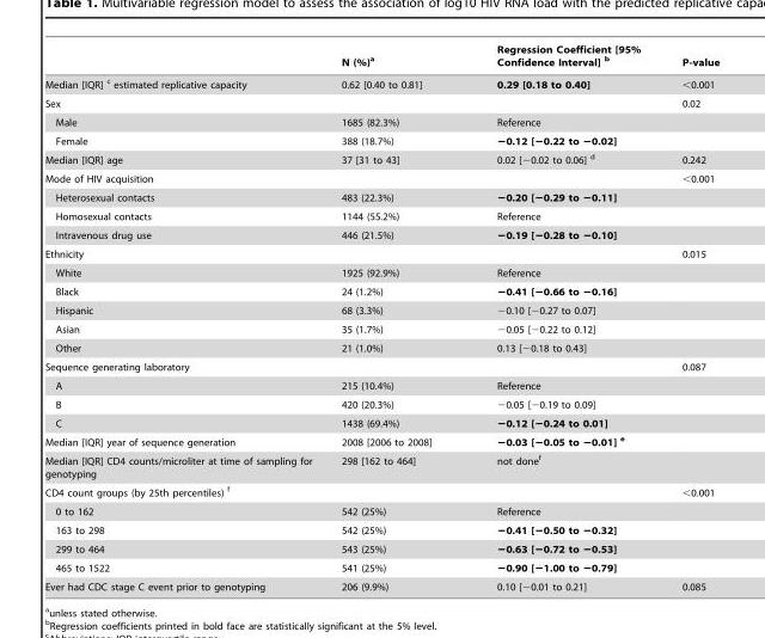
<table><thead><tr><td></td><td>N (%)<sup>a</sup></td><td>Regression Coefficient [95% Confidence Interval] b</td><td>P-value</td></tr></thead><tbody><tr><td>Median [IQR] c estimated replicative capacity</td><td>0.62 [0.40 to 0.81]</td><td>0.29 [0.18 to 0.40]</td><td>&lt;0.001</td></tr><tr><td>Sex</td><td></td><td></td><td>0.02</td></tr><tr><td>Male</td><td>1685 (82.3%)</td><td>Reference</td><td></td></tr><tr><td>Female</td><td>388 (18.7%)</td><td>−0.12 [−0.22 to −0.02]</td><td></td></tr><tr><td>Median [IQR] age</td><td>37 [31 to 43]</td><td>0.02 [−0.02 to 0.06] d</td><td>0.242</td></tr><tr><td>Mode of HIV acquisition</td><td></td><td></td><td>&lt;0.001</td></tr><tr><td>Heterosexual contacts</td><td>483 (22.3%)</td><td>−0.20 [−0.29 to −0.11]</td><td></td></tr><tr><td>Homosexual contacts</td><td>1144 (55.2%)</td><td>Reference</td><td></td></tr><tr><td>Intravenous drug use</td><td>446 (21.5%)</td><td>−0.19 [−0.28 to −0.10]</td><td></td></tr><tr><td>Ethnicity</td><td></td><td></td><td>0.015</td></tr><tr><td>White</td><td>1925 (92.9%)</td><td>Reference</td><td></td></tr><tr><td>Black</td><td>24 (1.2%)</td><td>−0.41 [−0.66 to −0.16]</td><td></td></tr><tr><td>Hispanic</td><td>68 (3.3%)</td><td>−0.10 [−0.27 to 0.07]</td><td></td></tr><tr><td>Asian</td><td>35 (1.7%)</td><td>−0.05 [−0.22 to 0.12]</td><td></td></tr><tr><td>Other</td><td>21 (1.0%)</td><td>0.13 [−0.18 to 0.43]</td><td></td></tr><tr><td>Sequence generating laboratory</td><td></td><td></td><td>0.087</td></tr><tr><td>A</td><td>215 (10.4%)</td><td>Reference</td><td></td></tr><tr><td>B</td><td>420 (20.3%)</td><td>−0.05 [−0.19 to 0.09]</td><td></td></tr><tr><td>C</td><td>1438 (69.4%)</td><td>−0.12 [−0.24 to 0.01]</td><td></td></tr><tr><td>Median [IQR] year of sequence generation</td><td>2008 [2006 to 2008]</td><td>−0.03 [−0.05 to −0.01] e</td><td></td></tr><tr><td>Median [IQR] CD4 counts/microliter at time of sampling for genotyping</td><td>298 [162 to 464]</td><td>not done<sup>f</sup></td><td></td></tr><tr><td>CD4 count groups (by 25th percentiles) f</td><td></td><td></td><td>&lt;0.001</td></tr><tr><td>0 to 162</td><td>542 (25%)</td><td>Reference</td><td></td></tr><tr><td>163 to 298</td><td>542 (25%)</td><td>−0.41 [−0.50 to −0.32]</td><td></td></tr><tr><td>299 to 464</td><td>543 (25%)</td><td>−0.63 [−0.72 to −0.53]</td><td></td></tr><tr><td>465 to 1522</td><td>541 (25%)</td><td>−0.90 [−1.00 to −0.79]</td><td></td></tr><tr><td>Ever had CDC stage C event prior to genotyping</td><td>206 (9.9%)</td><td>0.10 [−0.01 to 0.21]</td><td>0.085</td></tr></tbody></table>